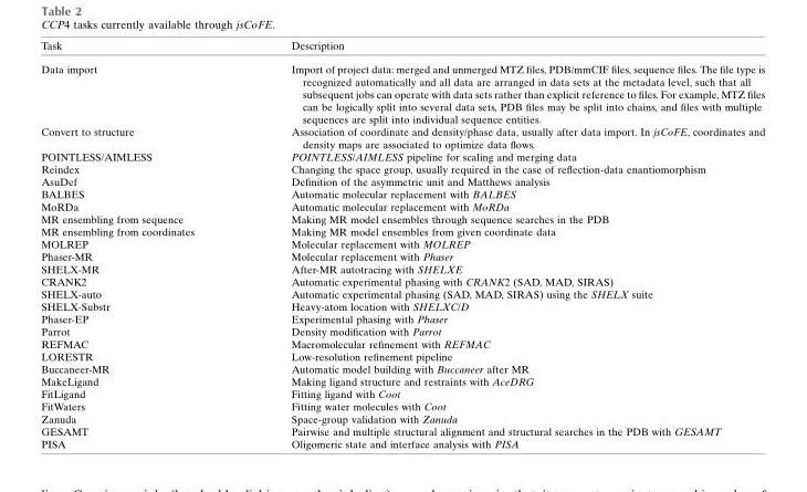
<table><thead><tr><td>Task</td><td>Description</td></tr></thead><tbody><tr><td>Data import</td><td>Import of project data: merged and unmerged MTZ files, PDB/mmCIF files, sequence files. The file type is recognized automatically and all data are arranged in data sets at the metadata level, such that all subsequent jobs can operate with data sets rather than explicit reference to files. For example, MTZ files can be logically split into several data sets, PDB files may be split into chains, and files with multiple sequences are split into individual sequence entities.</td></tr><tr><td>Convert to structure</td><td>Association of coordinate and density/phase data, usually after data import. In jsCoFE, coordinates and density maps are associated to optimize data flows.</td></tr><tr><td>POINTLESS/AIMLESS</td><td>POINTLESS/AIMLESS pipeline for scaling and merging data</td></tr><tr><td>Reindex</td><td>Changing the space group, usually required in the case of reflection-data enantiomorphism</td></tr><tr><td>AsuDef</td><td>Definition of the asymmetric unit and Matthews analysis</td></tr><tr><td>BALBES</td><td>Automatic molecular replacement with BALBES</td></tr><tr><td>MoRDa</td><td>Automatic molecular replacement with MoRDa</td></tr><tr><td>MR ensembling from sequence</td><td>Making MR model ensembles through sequence searches in the PDB</td></tr><tr><td>MR ensembling from coordinates</td><td>Making MR model ensembles from given coordinate data</td></tr><tr><td>MOLREP</td><td>Molecular replacement with MOLREP</td></tr><tr><td>Phaser-MR</td><td>Molecular replacement with Phaser</td></tr><tr><td>SHELX-MR</td><td>After-MR autotracing with SHELXE</td></tr><tr><td>CRANK2</td><td>Automatic experimental phasing with CRANK2 (SAD, MAD, SIRAS)</td></tr><tr><td>SHELX-auto</td><td>Automatic experimental phasing (SAD, MAD, SIRAS) using the SHELX suite</td></tr><tr><td>SHELX-Substr</td><td>Heavy-atom location with SHELXC/D</td></tr><tr><td>Phaser-EP</td><td>Experimental phasing with Phaser</td></tr><tr><td>Parrot</td><td>Density modification with Parrot</td></tr><tr><td>REFMAC</td><td>Macromolecular refinement with REFMAC</td></tr><tr><td>LORESTR</td><td>Low-resolution refinement pipeline</td></tr><tr><td>Buccaneer-MR</td><td>Automatic model building with Buccaneer after MR</td></tr><tr><td>MakeLigand</td><td>Making ligand structure and restraints with AceDRG</td></tr><tr><td>FitLigand</td><td>Fitting ligand with Coot</td></tr><tr><td>FitWaters</td><td>Fitting water molecules with Coot</td></tr><tr><td>Zanuda</td><td>Space-group validation with Zanuda</td></tr><tr><td>GESAMT</td><td>Pairwise and multiple structural alignment and structural searches in the PDB with GESAMT</td></tr><tr><td>PISA</td><td>Oligomeric state and interface analysis with PISA</td></tr></tbody></table>